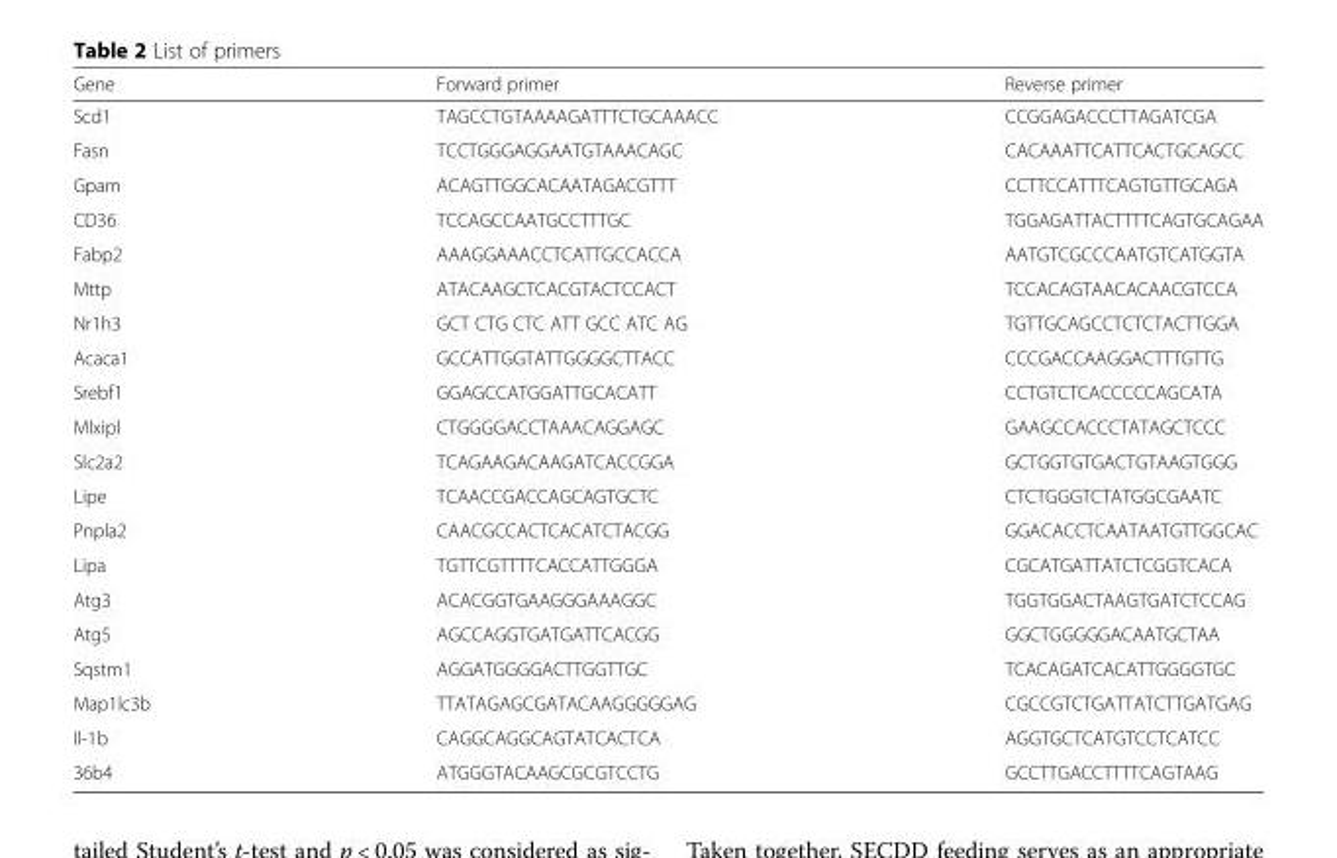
<table><thead><tr><td>Gene</td><td>Forward primer</td><td>Reverse primer</td></tr></thead><tbody><tr><td>Scd1</td><td>TAGCCTGTAAAAGATTTCTGCAAACC</td><td>CCGGAGACCCTTAGATCGA</td></tr><tr><td>Fasn</td><td>TCCTGGGAGGAATGTAAACAGC</td><td>CACAAATTCATTCACTGCAGCC</td></tr><tr><td>Gpam</td><td>ACAGTTGGCACAATAGACGTTT</td><td>CCTTCCATTTCAGTGTTGCAGA</td></tr><tr><td>CD36</td><td>TCCAGCCAATGCCTTTGC</td><td>TGGAGATTACTTTTCAGTGCAGAA</td></tr><tr><td>Fabp2</td><td>AAAGGAAACCTCATTGCCACCA</td><td>AATGTCGCCCAATGTCATGGTA</td></tr><tr><td>Mttp</td><td>ATACAAGCTCACGTACTCCACT</td><td>TCCACAGTAACACAACGTCCA</td></tr><tr><td>Nr1h3</td><td>GCT CTG CTC ATT GCC ATC AG</td><td>TGTTGCAGCCTCTCTACTTGGA</td></tr><tr><td>Acaca1</td><td>GCCATTGGTATTGGGGCTTACC</td><td>CCCGACCAAGGACTTTGTTG</td></tr><tr><td>Srebf1</td><td>GGAGCCATGGATTGCACATT</td><td>CCTGTCTCACCCCCAGCATA</td></tr><tr><td>Mlxipl</td><td>CTGGGGACCTAAACAGGAGC</td><td>GAAGCCACCCTATAGCTCCC</td></tr><tr><td>Slc2a2</td><td>TCAGAAGACAAGATCACCGGA</td><td>GCTGGTGTGACTGTAAGTGGG</td></tr><tr><td>Lipe</td><td>TCAACCGACCAGCAGTGCTC</td><td>CTCTGGGTCTATGGCGAATC</td></tr><tr><td>Pnpla2</td><td>CAACGCCACTCACATCTACGG</td><td>GGACACCTCAATAATGTTGGCAC</td></tr><tr><td>Lipa</td><td>TGTTCGTTTTCACCATTGGGA</td><td>CGCATGATTATCTCGGTCACA</td></tr><tr><td>Atg3</td><td>ACACGGTGAAGGGAAAGGC</td><td>TGGTGGACTAAGTGATCTCCAG</td></tr><tr><td>Atg5</td><td>AGCCAGGTGATGATTCACGG</td><td>GGCTGGGGGACAATGCTAA</td></tr><tr><td>Sqstm1</td><td>AGGATGGGGACTTGGTTGC</td><td>TCACAGATCACATTGGGGTGC</td></tr><tr><td>Map1lc3b</td><td>TTATAGAGCGATACAAGGGGGAG</td><td>CGCCGTCTGATTATCTTGATGAG</td></tr><tr><td>Il-1b</td><td>CAGGCAGGCAGTATCACTCA</td><td>AGGTGCTCATGTCCTCATCC</td></tr><tr><td>36b4</td><td>ATGGGTACAAGCGCGTCCTG</td><td>GCCTTGACCTTTTCAGTAAG</td></tr></tbody></table>